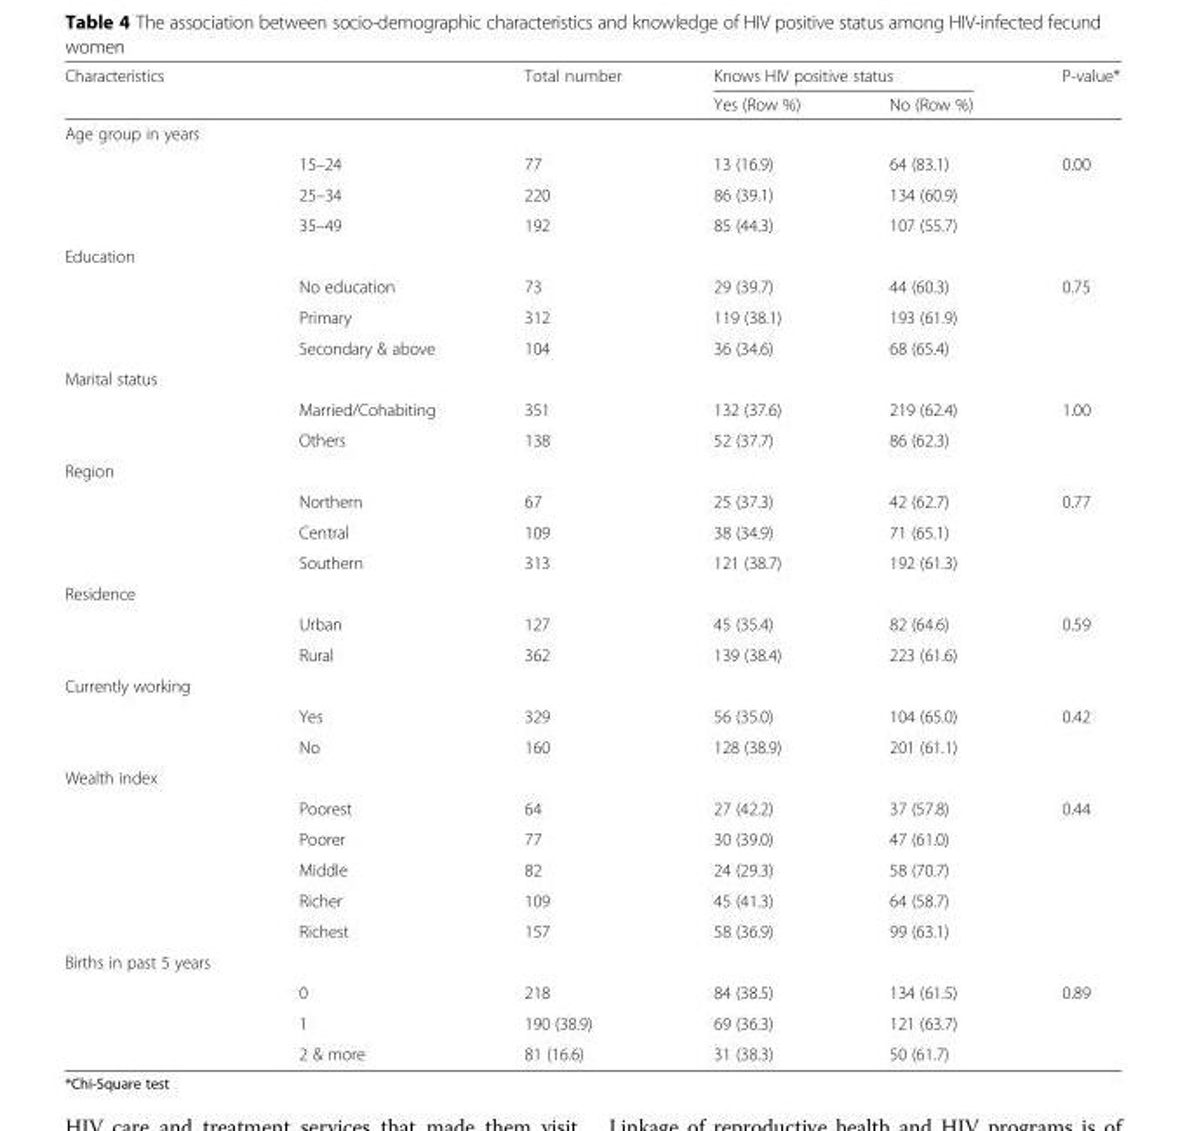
<table><thead><tr><td rowspan="2" colspan="2">Characteristics</td><td rowspan="3">Total number</td><td colspan="2">Knows HIV positive status</td><td rowspan="3">P-value*</td></tr><tr><td rowspan="2">Yes (Row %)</td><td rowspan="2">No (Row %)</td></tr><tr><td>Age group in years</td><td></td></tr></thead><tbody><tr><td></td><td>15–24</td><td>77</td><td>13 (16.9)</td><td>64 (83.1)</td><td>0.00</td></tr><tr><td></td><td>25–34</td><td>220</td><td>86 (39.1)</td><td>134 (60.9)</td><td></td></tr><tr><td></td><td>35–49</td><td>192</td><td>85 (44.3)</td><td>107 (55.7)</td><td></td></tr><tr><td colspan="6">Education</td></tr><tr><td></td><td>No education</td><td>73</td><td>29 (39.7)</td><td>44 (60.3)</td><td>0.75</td></tr><tr><td></td><td>Primary</td><td>312</td><td>119 (38.1)</td><td>193 (61.9)</td><td></td></tr><tr><td></td><td>Secondary &amp; above</td><td>104</td><td>36 (34.6)</td><td>68 (65.4)</td><td></td></tr><tr><td colspan="6">Marital status</td></tr><tr><td></td><td>Married/Cohabiting</td><td>351</td><td>132 (37.6)</td><td>219 (62.4)</td><td>1.00</td></tr><tr><td></td><td>Others</td><td>138</td><td>52 (37.7)</td><td>86 (62.3)</td><td></td></tr><tr><td colspan="6">Region</td></tr><tr><td></td><td>Northern</td><td>67</td><td>25 (37.3)</td><td>42 (62.7)</td><td>0.77</td></tr><tr><td></td><td>Central</td><td>109</td><td>38 (34.9)</td><td>71 (65.1)</td><td></td></tr><tr><td></td><td>Southern</td><td>313</td><td>121 (38.7)</td><td>192 (61.3)</td><td></td></tr><tr><td colspan="6">Residence</td></tr><tr><td></td><td>Urban</td><td>127</td><td>45 (35.4)</td><td>82 (64.6)</td><td>0.59</td></tr><tr><td></td><td>Rural</td><td>362</td><td>139 (38.4)</td><td>223 (61.6)</td><td></td></tr><tr><td colspan="6">Currently working</td></tr><tr><td></td><td>Yes</td><td>329</td><td>56 (35.0)</td><td>104 (65.0)</td><td>0.42</td></tr><tr><td></td><td>No</td><td>160</td><td>128 (38.9)</td><td>201 (61.1)</td><td></td></tr><tr><td colspan="6">Wealth index</td></tr><tr><td></td><td>Poorest</td><td>64</td><td>27 (42.2)</td><td>37 (57.8)</td><td>0.44</td></tr><tr><td></td><td>Poorer</td><td>77</td><td>30 (39.0)</td><td>47 (61.0)</td><td></td></tr><tr><td></td><td>Middle</td><td>82</td><td>24 (29.3)</td><td>58 (70.7)</td><td></td></tr><tr><td></td><td>Richer</td><td>109</td><td>45 (41.3)</td><td>64 (58.7)</td><td></td></tr><tr><td></td><td>Richest</td><td>157</td><td>58 (36.9)</td><td>99 (63.1)</td><td></td></tr><tr><td colspan="6">Births in past 5 years</td></tr><tr><td></td><td>0</td><td>218</td><td>84 (38.5)</td><td>134 (61.5)</td><td>0.89</td></tr><tr><td></td><td>1</td><td>190 (38.9)</td><td>69 (36.3)</td><td>121 (63.7)</td><td></td></tr><tr><td></td><td>2 &amp; more</td><td>81 (16.6)</td><td>31 (38.3)</td><td>50 (61.7)</td><td></td></tr></tbody></table>